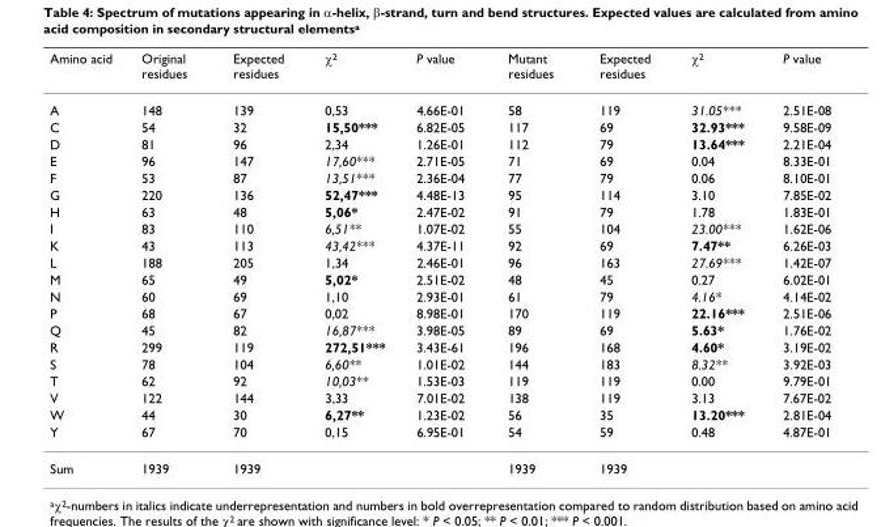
<table><thead><tr><td>Amino acid</td><td>Original residues</td><td>Expected residues</td><td>χ<sup>2</sup></td><td>P value</td><td>Mutant residues</td><td>Expected residues</td><td>χ<sup>2</sup></td><td>P value</td></tr></thead><tbody><tr><td>A</td><td>148</td><td>139</td><td>0,53</td><td>4.66E-01</td><td>58</td><td>119</td><td>31.05***</td><td>2.51E-08</td></tr><tr><td>C</td><td>54</td><td>32</td><td>15,50***</td><td>6.82E-05</td><td>117</td><td>69</td><td>32.93***</td><td>9.58E-09</td></tr><tr><td>D</td><td>81</td><td>96</td><td>2,34</td><td>1.26E-01</td><td>112</td><td>79</td><td>13.64***</td><td>2.21E-04</td></tr><tr><td>E</td><td>96</td><td>147</td><td>17,60***</td><td>2.71E-05</td><td>71</td><td>69</td><td>0.04</td><td>8.33E-01</td></tr><tr><td>F</td><td>53</td><td>87</td><td>13,51***</td><td>2.36E-04</td><td>77</td><td>79</td><td>0.06</td><td>8.10E-01</td></tr><tr><td>G</td><td>220</td><td>136</td><td>52,47***</td><td>4.48E-13</td><td>95</td><td>114</td><td>3.10</td><td>7.85E-02</td></tr><tr><td>H</td><td>63</td><td>48</td><td>5,06*</td><td>2.47E-02</td><td>91</td><td>79</td><td>1.78</td><td>1.83E-01</td></tr><tr><td>I</td><td>83</td><td>110</td><td>6,51**</td><td>1.07E-02</td><td>55</td><td>104</td><td>23.00***</td><td>1.62E-06</td></tr><tr><td>K</td><td>43</td><td>113</td><td>43,42***</td><td>4.37E-11</td><td>92</td><td>69</td><td>7.47**</td><td>6.26E-03</td></tr><tr><td>L</td><td>188</td><td>205</td><td>1,34</td><td>2.46E-01</td><td>96</td><td>163</td><td>27.69***</td><td>1.42E-07</td></tr><tr><td>M</td><td>65</td><td>49</td><td>5,02*</td><td>2.51E-02</td><td>48</td><td>45</td><td>0.27</td><td>6.02E-01</td></tr><tr><td>N</td><td>60</td><td>69</td><td>1,10</td><td>2.93E-01</td><td>61</td><td>79</td><td>4.16*</td><td>4.14E-02</td></tr><tr><td>P</td><td>68</td><td>67</td><td>0,02</td><td>8.98E-01</td><td>170</td><td>119</td><td>22.16***</td><td>2.51E-06</td></tr><tr><td>Q</td><td>45</td><td>82</td><td>16,87***</td><td>3.98E-05</td><td>89</td><td>69</td><td>5.63*</td><td>1.76E-02</td></tr><tr><td>R</td><td>299</td><td>119</td><td>272,51***</td><td>3.43E-61</td><td>196</td><td>168</td><td>4.60*</td><td>3.19E-02</td></tr><tr><td>S</td><td>78</td><td>104</td><td>6,60**</td><td>1.01E-02</td><td>144</td><td>183</td><td>8.32**</td><td>3.92E-03</td></tr><tr><td>T</td><td>62</td><td>92</td><td>10,03**</td><td>1.53E-03</td><td>119</td><td>119</td><td>0.00</td><td>9.79E-01</td></tr><tr><td>V</td><td>122</td><td>144</td><td>3,33</td><td>7.01E-02</td><td>138</td><td>119</td><td>3.13</td><td>7.67E-02</td></tr><tr><td>W</td><td>44</td><td>30</td><td>6,27**</td><td>1.23E-02</td><td>56</td><td>35</td><td>13.20***</td><td>2.81E-04</td></tr><tr><td>Y</td><td>67</td><td>70</td><td>0,15</td><td>6.95E-01</td><td>54</td><td>59</td><td>0.48</td><td>4.87E-01</td></tr><tr><td>Sum</td><td>1939</td><td>1939</td><td></td><td></td><td>1939</td><td>1939</td><td></td><td></td></tr></tbody></table>